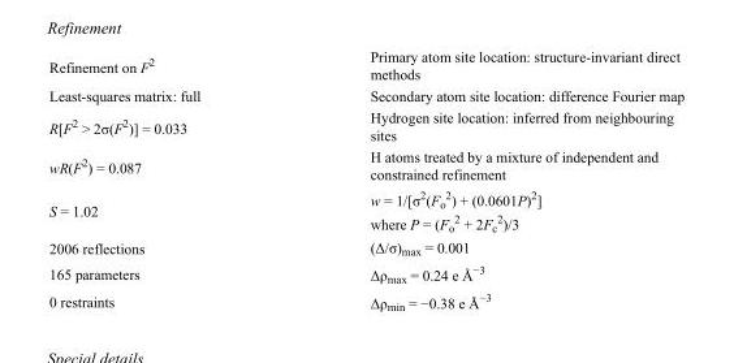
<table><tbody><tr><td>Refinement on F<sup>2</sup></td><td>Primary atom site location: structure-invariant direct methods</td></tr><tr><td>Least-squares matrix: full</td><td>Secondary atom site location: difference Fourier map</td></tr><tr><td>R[F<sup>2</sup> &gt; 2σ(F<sup>2</sup>)] = 0.033</td><td>Hydrogen site location: inferred from neighbouring sites</td></tr><tr><td>wR(F<sup>2</sup>) = 0.087</td><td>H atoms treated by a mixture of independent and constrained refinement</td></tr><tr><td>S = 1.02</td><td>w = 1/[σ<sup>2</sup>(F<sub>o</sub> <sup>2</sup>) + (0.0601P)<sup>2</sup>] where P = (F<sub>o</sub> <sup>2</sup> + 2F<sub>c</sub> <sup>2</sup>)/3</td></tr><tr><td>2006 reflections</td><td>(Δ/σ)<sub>max</sub> = 0.001</td></tr><tr><td>165 parameters</td><td>Δρ<sub>max</sub> = 0.24 e Å<sup>−3</sup></td></tr><tr><td>0 restraints</td><td>Δρ<sub>min</sub> = −0.38 e Å<sup>−3</sup></td></tr></tbody></table>